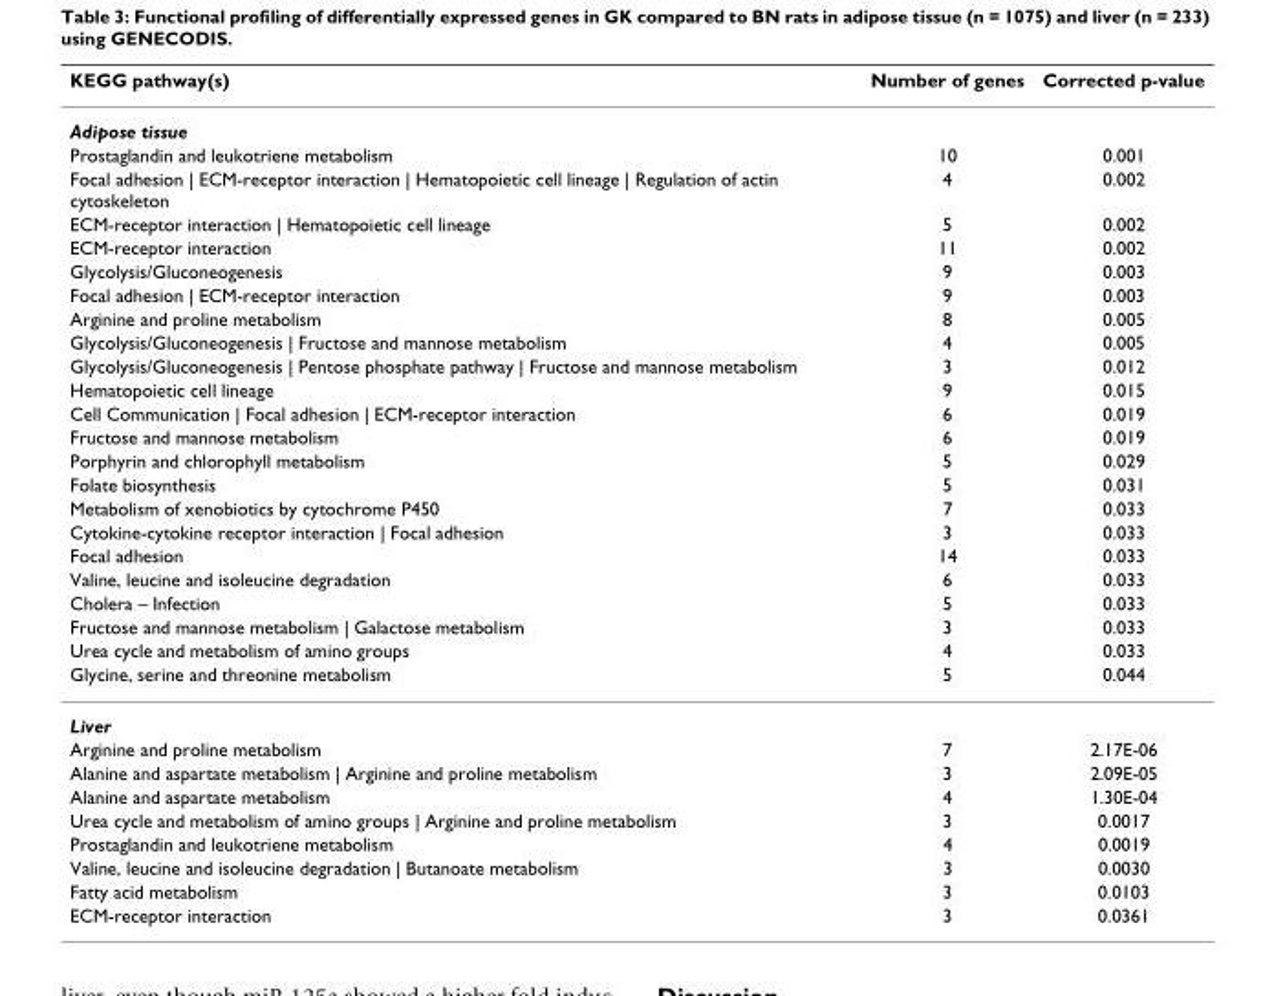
<table><thead><tr><td>KEGG pathway(s)</td><td>Number of genes</td><td>Corrected p-value</td></tr></thead><tbody><tr><td colspan="3">Adipose tissue</td></tr><tr><td>Prostaglandin and leukotriene metabolism</td><td>10</td><td>0.001</td></tr><tr><td>Focal adhesion | ECM-receptor interaction | Hematopoietic cell lineage | Regulation of actin cytoskeleton</td><td>4</td><td>0.002</td></tr><tr><td>ECM-receptor interaction | Hematopoietic cell lineage</td><td>5</td><td>0.002</td></tr><tr><td>ECM-receptor interaction</td><td>11</td><td>0.002</td></tr><tr><td>Glycolysis/Gluconeogenesis</td><td>9</td><td>0.003</td></tr><tr><td>Focal adhesion | ECM-receptor interaction</td><td>9</td><td>0.003</td></tr><tr><td>Arginine and proline metabolism</td><td>8</td><td>0.005</td></tr><tr><td>Glycolysis/Gluconeogenesis | Fructose and mannose metabolism</td><td>4</td><td>0.005</td></tr><tr><td>Glycolysis/Gluconeogenesis | Pentose phosphate pathway | Fructose and mannose metabolism</td><td>3</td><td>0.012</td></tr><tr><td>Hematopoietic cell lineage</td><td>9</td><td>0.015</td></tr><tr><td>Cell Communication | Focal adhesion | ECM-receptor interaction</td><td>6</td><td>0.019</td></tr><tr><td>Fructose and mannose metabolism</td><td>6</td><td>0.019</td></tr><tr><td>Porphyrin and chlorophyll metabolism</td><td>5</td><td>0.029</td></tr><tr><td>Folate biosynthesis</td><td>5</td><td>0.031</td></tr><tr><td>Metabolism of xenobiotics by cytochrome P450</td><td>7</td><td>0.033</td></tr><tr><td>Cytokine-cytokine receptor interaction | Focal adhesion</td><td>3</td><td>0.033</td></tr><tr><td>Focal adhesion</td><td>14</td><td>0.033</td></tr><tr><td>Valine, leucine and isoleucine degradation</td><td>6</td><td>0.033</td></tr><tr><td>Cholera – Infection</td><td>5</td><td>0.033</td></tr><tr><td>Fructose and mannose metabolism | Galactose metabolism</td><td>3</td><td>0.033</td></tr><tr><td>Urea cycle and metabolism of amino groups</td><td>4</td><td>0.033</td></tr><tr><td>Glycine, serine and threonine metabolism</td><td>5</td><td>0.044</td></tr><tr><td colspan="3">Liver</td></tr><tr><td>Arginine and proline metabolism</td><td>7</td><td>2.17E-06</td></tr><tr><td>Alanine and aspartate metabolism | Arginine and proline metabolism</td><td>3</td><td>2.09E-05</td></tr><tr><td>Alanine and aspartate metabolism</td><td>4</td><td>1.30E-04</td></tr><tr><td>Urea cycle and metabolism of amino groups | Arginine and proline metabolism</td><td>3</td><td>0.0017</td></tr><tr><td>Prostaglandin and leukotriene metabolism</td><td>4</td><td>0.0019</td></tr><tr><td>Valine, leucine and isoleucine degradation | Butanoate metabolism</td><td>3</td><td>0.0030</td></tr><tr><td>Fatty acid metabolism</td><td>3</td><td>0.0103</td></tr><tr><td>ECM-receptor interaction</td><td>3</td><td>0.0361</td></tr></tbody></table>